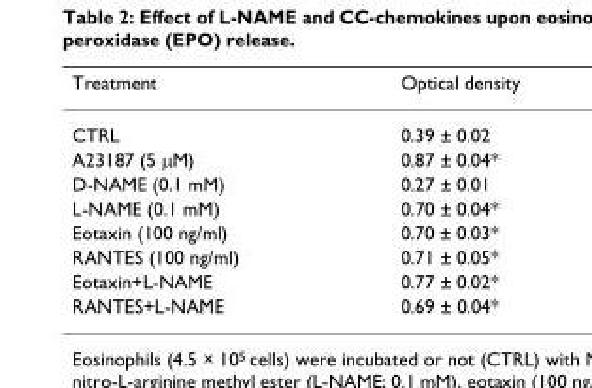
<table><thead><tr><td>Treatment</td><td>Optical density</td></tr></thead><tbody><tr><td>CTRL</td><td>0.39 ± 0.02</td></tr><tr><td>A23187 (5 μM)</td><td>0.87 ± 0.04*</td></tr><tr><td>D-NAME (0.1 mM)</td><td>0.27 ± 0.01</td></tr><tr><td>L-NAME (0.1 mM)</td><td>0.70 ± 0.04*</td></tr><tr><td>Eotaxin (100 ng/ml)</td><td>0.70 ± 0.03*</td></tr><tr><td>RANTES (100 ng/ml)</td><td>0.71 ± 0.05*</td></tr><tr><td>Eotaxin+L-NAME</td><td>0.77 ± 0.02*</td></tr><tr><td>RANTES+L-NAME</td><td>0.69 ± 0.04*</td></tr></tbody></table>